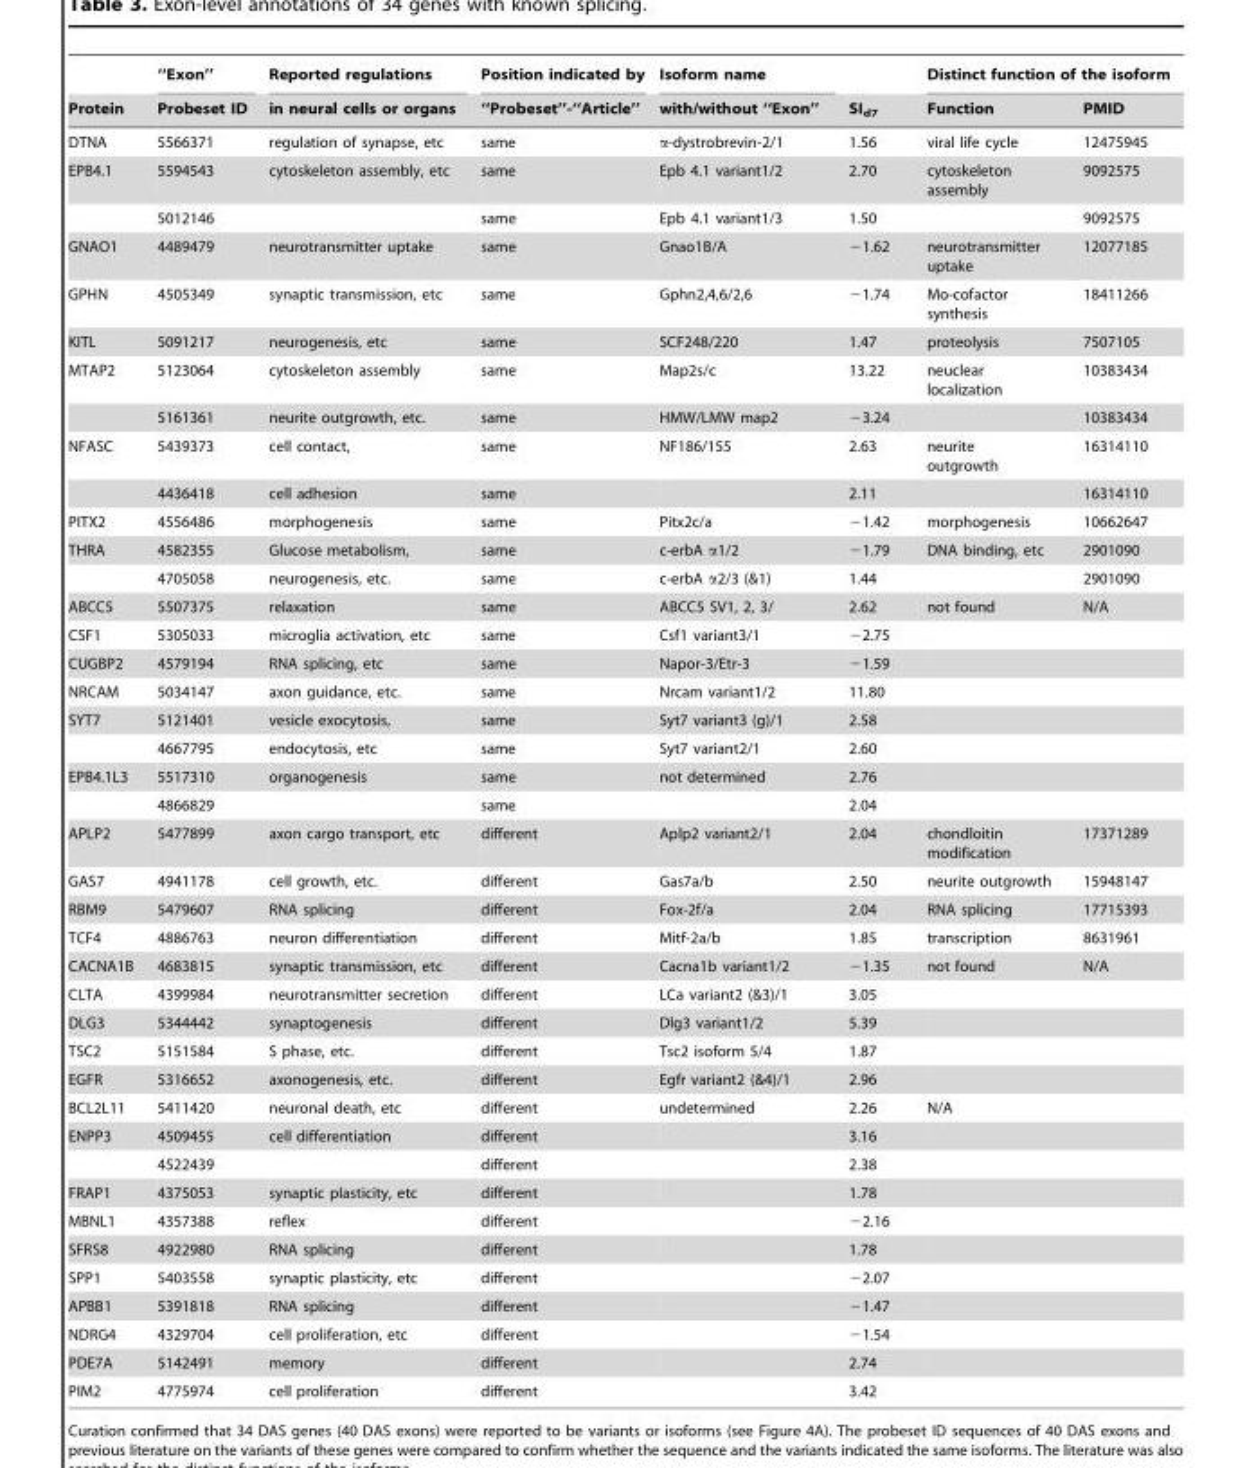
<table><thead><tr><td rowspan="2">Protein</td><td rowspan="2">‘‘Exon’’ Probeset ID</td><td rowspan="2">Reported regulations in neural cells or organs</td><td rowspan="2">Position indicated by ‘‘Probeset’’-‘‘Article’’</td><td rowspan="2">Isoform name with/without ‘‘Exon’’</td><td rowspan="2">SI<sub>d7</sub></td><td colspan="2">Distinct function of the isoform</td></tr><tr><td>Function</td><td>PMID</td></tr></thead><tbody><tr><td>DTNA</td><td>5566371</td><td>regulation of synapse, etc</td><td>same</td><td>α-dystrobrevin-2/1</td><td>1.56</td><td>viral life cycle</td><td>12475945</td></tr><tr><td rowspan="2">EPB4.1</td><td>5594543</td><td>cytoskeleton assembly, etc</td><td>same</td><td>Epb 4.1 variant1/2</td><td>2.70</td><td>cytoskeleton assembly</td><td>9092575</td></tr><tr><td>5012146</td><td></td><td>same</td><td>Epb 4.1 variant1/3</td><td>1.50</td><td></td><td>9092575</td></tr><tr><td>GNAO1</td><td>4489479</td><td>neurotransmitter uptake</td><td>same</td><td>Gnao1B/A</td><td>−1.62</td><td>neurotransmitter uptake</td><td>12077185</td></tr><tr><td>GPHN</td><td>4505349</td><td>synaptic transmission, etc</td><td>same</td><td>Gphn2,4,6/2,6</td><td>−1.74</td><td>Mo-cofactor synthesis</td><td>18411266</td></tr><tr><td>KITL</td><td>5091217</td><td>neurogenesis, etc</td><td>same</td><td>SCF248/220</td><td>1.47</td><td>proteolysis</td><td>7507105</td></tr><tr><td rowspan="2">MTAP2</td><td>5123064</td><td>cytoskeleton assembly</td><td>same</td><td>Map2s/c</td><td>13.22</td><td>neuclear localization</td><td>10383434</td></tr><tr><td>5161361</td><td>neurite outgrowth, etc.</td><td>same</td><td>HMW/LMW map2</td><td>−3.24</td><td></td><td>10383434</td></tr><tr><td rowspan="2">NFASC</td><td>5439373</td><td>cell contact,</td><td>same</td><td>NF186/155</td><td>2.63</td><td>neurite outgrowth</td><td>16314110</td></tr><tr><td>4436418</td><td>cell adhesion</td><td>same</td><td></td><td>2.11</td><td></td><td>16314110</td></tr><tr><td>PITX2</td><td>4556486</td><td>morphogenesis</td><td>same</td><td>Pitx2c/a</td><td>−1.42</td><td>morphogenesis</td><td>10662647</td></tr><tr><td rowspan="2">THRA</td><td>4582355</td><td>Glucose metabolism,</td><td>same</td><td>c-erbA α1/2</td><td>−1.79</td><td>DNA binding, etc</td><td>2901090</td></tr><tr><td>4705058</td><td>neurogenesis, etc.</td><td>same</td><td>c-erbA α2/3 (&amp;1)</td><td>1.44</td><td></td><td>2901090</td></tr><tr><td>ABCC5</td><td>5507375</td><td>relaxation</td><td>same</td><td>ABCC5 SV1, 2, 3/</td><td>2.62</td><td>not found</td><td>N/A</td></tr><tr><td>CSF1</td><td>5305033</td><td>microglia activation, etc</td><td>same</td><td>Csf1 variant3/1</td><td>−2.75</td><td></td><td></td></tr><tr><td>CUGBP2</td><td>4579194</td><td>RNA splicing, etc</td><td>same</td><td>Napor-3/Etr-3</td><td>−1.59</td><td></td><td></td></tr><tr><td>NRCAM</td><td>5034147</td><td>axon guidance, etc.</td><td>same</td><td>Nrcam variant1/2</td><td>11.80</td><td></td><td></td></tr><tr><td rowspan="2">SYT7</td><td>5121401</td><td>vesicle exocytosis,</td><td>same</td><td>Syt7 variant3 (g)/1</td><td>2.58</td><td></td><td></td></tr><tr><td>4667795</td><td>endocytosis, etc</td><td>same</td><td>Syt7 variant2/1</td><td>2.60</td><td></td><td></td></tr><tr><td rowspan="2">EPB4.1L3</td><td>5517310</td><td>organogenesis</td><td>same</td><td>not determined</td><td>2.76</td><td></td><td></td></tr><tr><td>4866829</td><td></td><td>same</td><td></td><td>2.04</td><td></td><td></td></tr><tr><td>APLP2</td><td>5477899</td><td>axon cargo transport, etc</td><td>different</td><td>Aplp2 variant2/1</td><td>2.04</td><td>chondloitin modification</td><td>17371289</td></tr><tr><td>GAS7</td><td>4941178</td><td>cell growth, etc.</td><td>different</td><td>Gas7a/b</td><td>2.50</td><td>neurite outgrowth</td><td>15948147</td></tr><tr><td>RBM9</td><td>5479607</td><td>RNA splicing</td><td>different</td><td>Fox-2f/a</td><td>2.04</td><td>RNA splicing</td><td>17715393</td></tr><tr><td>TCF4</td><td>4886763</td><td>neuron differentiation</td><td>different</td><td>Mitf-2a/b</td><td>1.85</td><td>transcription</td><td>8631961</td></tr><tr><td>CACNA1B</td><td>4683815</td><td>synaptic transmission, etc</td><td>different</td><td>Cacna1b variant1/2</td><td>−1.35</td><td>not found</td><td>N/A</td></tr><tr><td>CLTA</td><td>4399984</td><td>neurotransmitter secretion</td><td>different</td><td>LCa variant2 (&amp;3)/1</td><td>3.05</td><td></td><td></td></tr><tr><td>DLG3</td><td>5344442</td><td>synaptogenesis</td><td>different</td><td>Dlg3 variant1/2</td><td>5.39</td><td></td><td></td></tr><tr><td>TSC2</td><td>5151584</td><td>S phase, etc.</td><td>different</td><td>Tsc2 isoform 5/4</td><td>1.87</td><td></td><td></td></tr><tr><td>EGFR</td><td>5316652</td><td>axonogenesis, etc.</td><td>different</td><td>Egfr variant2 (&amp;4)/1</td><td>2.96</td><td></td><td></td></tr><tr><td>BCL2L11</td><td>5411420</td><td>neuronal death, etc</td><td>different</td><td>undetermined</td><td>2.26</td><td>N/A</td><td></td></tr><tr><td rowspan="2">ENPP3</td><td>4509455</td><td>cell differentiation</td><td>different</td><td></td><td>3.16</td><td></td><td></td></tr><tr><td>4522439</td><td></td><td>different</td><td></td><td>2.38</td><td></td><td></td></tr><tr><td>FRAP1</td><td>4375053</td><td>synaptic plasticity, etc</td><td>different</td><td></td><td>1.78</td><td></td><td></td></tr><tr><td>MBNL1</td><td>4357388</td><td>reflex</td><td>different</td><td></td><td>−2.16</td><td></td><td></td></tr><tr><td>SFRS8</td><td>4922980</td><td>RNA splicing</td><td>different</td><td></td><td>1.78</td><td></td><td></td></tr><tr><td>SPP1</td><td>5403558</td><td>synaptic plasticity, etc</td><td>different</td><td></td><td>−2.07</td><td></td><td></td></tr><tr><td>APBB1</td><td>5391818</td><td>RNA splicing</td><td>different</td><td></td><td>−1.47</td><td></td><td></td></tr><tr><td>NDRG4</td><td>4329704</td><td>cell proliferation, etc</td><td>different</td><td></td><td>−1.54</td><td></td><td></td></tr><tr><td>PDE7A</td><td>5142491</td><td>memory</td><td>different</td><td></td><td>2.74</td><td></td><td></td></tr><tr><td>PIM2</td><td>4775974</td><td>cell proliferation</td><td>different</td><td></td><td>3.42</td><td></td><td></td></tr></tbody></table>